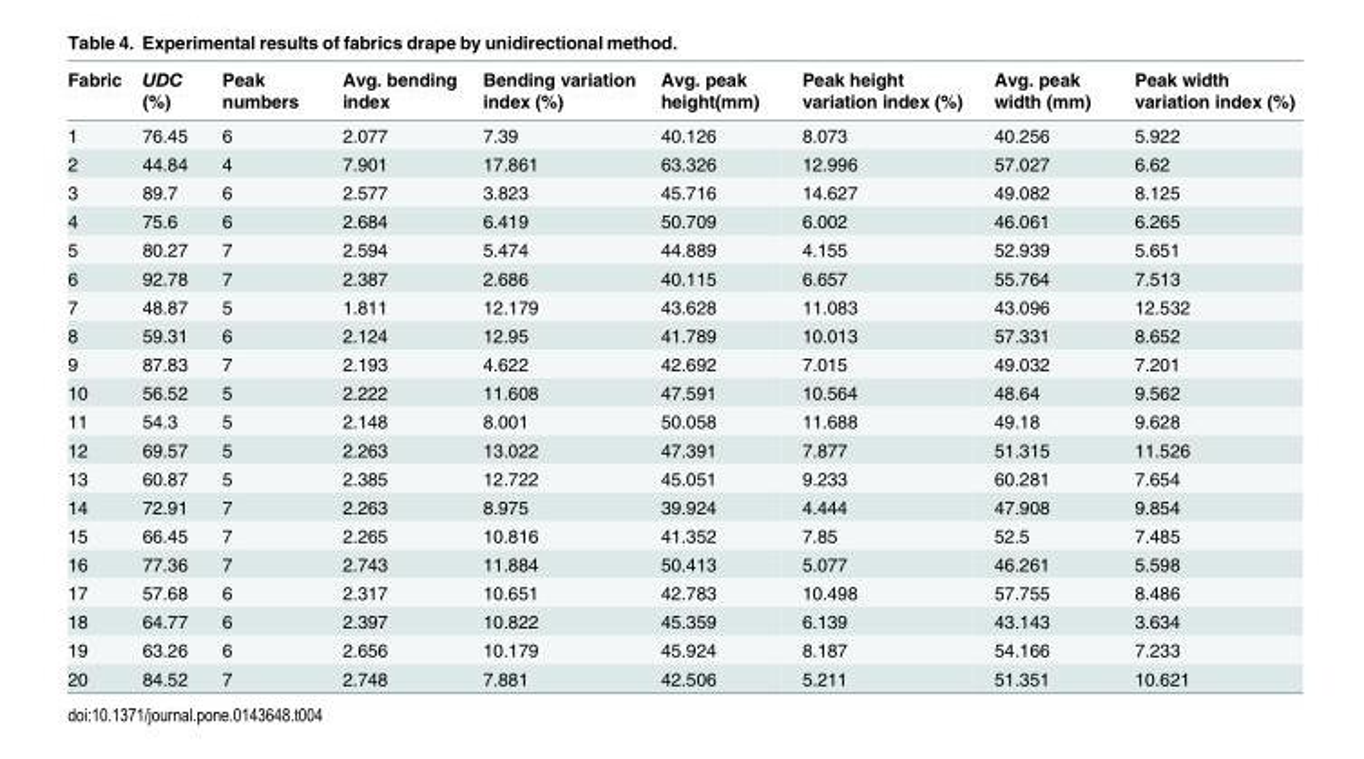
<table><thead><tr><td>Fabric</td><td>UDC (%)</td><td>Peak numbers</td><td>Avg. bending index</td><td>Bending variation index (%)</td><td>Avg. peak height(mm)</td><td>Peak height variation index (%)</td><td>Avg. peak width (mm)</td><td>Peak width variation index (%)</td></tr></thead><tbody><tr><td>1</td><td>76.45</td><td>6</td><td>2.077</td><td>7.39</td><td>40.126</td><td>8.073</td><td>40.256</td><td>5.922</td></tr><tr><td>2</td><td>44.84</td><td>4</td><td>7.901</td><td>17.861</td><td>63.326</td><td>12.996</td><td>57.027</td><td>6.62</td></tr><tr><td>3</td><td>89.7</td><td>6</td><td>2.577</td><td>3.823</td><td>45.716</td><td>14.627</td><td>49.082</td><td>8.125</td></tr><tr><td>4</td><td>75.6</td><td>6</td><td>2.684</td><td>6.419</td><td>50.709</td><td>6.002</td><td>46.061</td><td>6.265</td></tr><tr><td>5</td><td>80.27</td><td>7</td><td>2.594</td><td>5.474</td><td>44.889</td><td>4.155</td><td>52.939</td><td>5.651</td></tr><tr><td>6</td><td>92.78</td><td>7</td><td>2.387</td><td>2.686</td><td>40.115</td><td>6.657</td><td>55.764</td><td>7.513</td></tr><tr><td>7</td><td>48.87</td><td>5</td><td>1.811</td><td>12.179</td><td>43.628</td><td>11.083</td><td>43.096</td><td>12.532</td></tr><tr><td>8</td><td>59.31</td><td>6</td><td>2.124</td><td>12.95</td><td>41.789</td><td>10.013</td><td>57.331</td><td>8.652</td></tr><tr><td>9</td><td>87.83</td><td>7</td><td>2.193</td><td>4.622</td><td>42.692</td><td>7.015</td><td>49.032</td><td>7.201</td></tr><tr><td>10</td><td>56.52</td><td>5</td><td>2.222</td><td>11.608</td><td>47.591</td><td>10.564</td><td>48.64</td><td>9.562</td></tr><tr><td>11</td><td>54.3</td><td>5</td><td>2.148</td><td>8.001</td><td>50.058</td><td>11.688</td><td>49.18</td><td>9.628</td></tr><tr><td>12</td><td>69.57</td><td>5</td><td>2.263</td><td>13.022</td><td>47.391</td><td>7.877</td><td>51.315</td><td>11.526</td></tr><tr><td>13</td><td>60.87</td><td>5</td><td>2.385</td><td>12.722</td><td>45.051</td><td>9.233</td><td>60.281</td><td>7.654</td></tr><tr><td>14</td><td>72.91</td><td>7</td><td>2.263</td><td>8.975</td><td>39.924</td><td>4.444</td><td>47.908</td><td>9.854</td></tr><tr><td>15</td><td>66.45</td><td>7</td><td>2.265</td><td>10.816</td><td>41.352</td><td>7.85</td><td>52.5</td><td>7.485</td></tr><tr><td>16</td><td>77.36</td><td>7</td><td>2.743</td><td>11.884</td><td>50.413</td><td>5.077</td><td>46.261</td><td>5.598</td></tr><tr><td>17</td><td>57.68</td><td>6</td><td>2.317</td><td>10.651</td><td>42.783</td><td>10.498</td><td>57.755</td><td>8.486</td></tr><tr><td>18</td><td>64.77</td><td>6</td><td>2.397</td><td>10.822</td><td>45.359</td><td>6.139</td><td>43.143</td><td>3.634</td></tr><tr><td>19</td><td>63.26</td><td>6</td><td>2.656</td><td>10.179</td><td>45.924</td><td>8.187</td><td>54.166</td><td>7.233</td></tr><tr><td>20</td><td>84.52</td><td>7</td><td>2.748</td><td>7.881</td><td>42.506</td><td>5.211</td><td>51.351</td><td>10.621</td></tr></tbody></table>